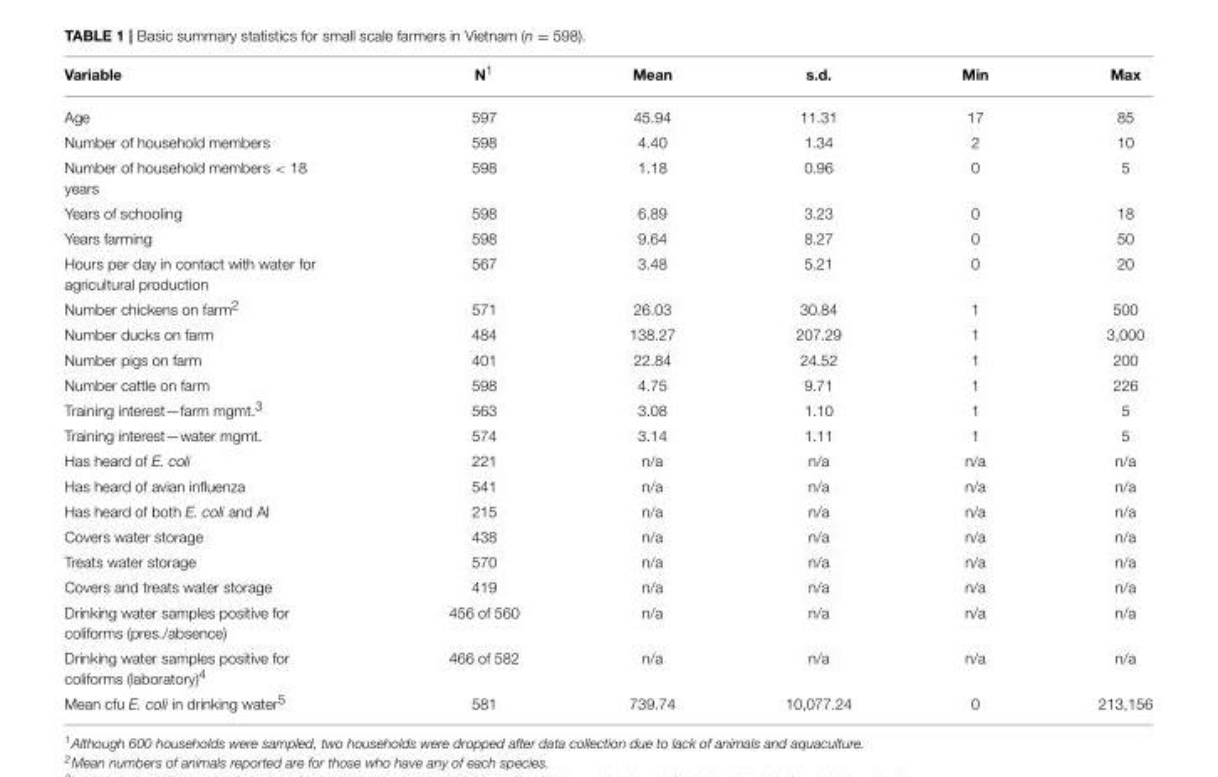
<table><thead><tr><td>Variable</td><td>N<sup>1</sup></td><td>Mean</td><td>s.d.</td><td>Min</td><td>Max</td></tr></thead><tbody><tr><td>Age</td><td>597</td><td>45.94</td><td>11.31</td><td>17</td><td>85</td></tr><tr><td>Number of household members</td><td>598</td><td>4.40</td><td>1.34</td><td>2</td><td>10</td></tr><tr><td>Number of household members &lt; 18 years</td><td>598</td><td>1.18</td><td>0.96</td><td>0</td><td>5</td></tr><tr><td>Years of schooling</td><td>598</td><td>6.89</td><td>3.23</td><td>0</td><td>18</td></tr><tr><td>Years farming</td><td>598</td><td>9.64</td><td>8.27</td><td>0</td><td>50</td></tr><tr><td>Hours per day in contact with water for agricultural production</td><td>567</td><td>3.48</td><td>5.21</td><td>0</td><td>20</td></tr><tr><td>Number chickens on farm<sup>2</sup></td><td>571</td><td>26.03</td><td>30.84</td><td>1</td><td>500</td></tr><tr><td>Number ducks on farm</td><td>484</td><td>138.27</td><td>207.29</td><td>1</td><td>3,000</td></tr><tr><td>Number pigs on farm</td><td>401</td><td>22.84</td><td>24.52</td><td>1</td><td>200</td></tr><tr><td>Number cattle on farm</td><td>598</td><td>4.75</td><td>9.71</td><td>1</td><td>226</td></tr><tr><td>Training interest—farm mgmt.<sup>3</sup></td><td>563</td><td>3.08</td><td>1.10</td><td>1</td><td>5</td></tr><tr><td>Training interest—water mgmt.</td><td>574</td><td>3.14</td><td>1.11</td><td>1</td><td>5</td></tr><tr><td>Has heard of E. coli</td><td>221</td><td>n/a</td><td>n/a</td><td>n/a</td><td>n/a</td></tr><tr><td>Has heard of avian influenza</td><td>541</td><td>n/a</td><td>n/a</td><td>n/a</td><td>n/a</td></tr><tr><td>Has heard of both E. coli and AI</td><td>215</td><td>n/a</td><td>n/a</td><td>n/a</td><td>n/a</td></tr><tr><td>Covers water storage</td><td>438</td><td>n/a</td><td>n/a</td><td>n/a</td><td>n/a</td></tr><tr><td>Treats water storage</td><td>570</td><td>n/a</td><td>n/a</td><td>n/a</td><td>n/a</td></tr><tr><td>Covers and treats water storage</td><td>419</td><td>n/a</td><td>n/a</td><td>n/a</td><td>n/a</td></tr><tr><td>Drinking water samples positive for coliforms (pres./absence)</td><td>456 of 560</td><td>n/a</td><td>n/a</td><td>n/a</td><td>n/a</td></tr><tr><td>Drinking water samples positive for coliforms (laboratory)<sup>4</sup></td><td>466 of 582</td><td>n/a</td><td>n/a</td><td>n/a</td><td>n/a</td></tr><tr><td>Mean cfu E. coli in drinking water<sup>5</sup></td><td>581</td><td>739.74</td><td>10,077.24</td><td>0</td><td>213,156</td></tr></tbody></table>